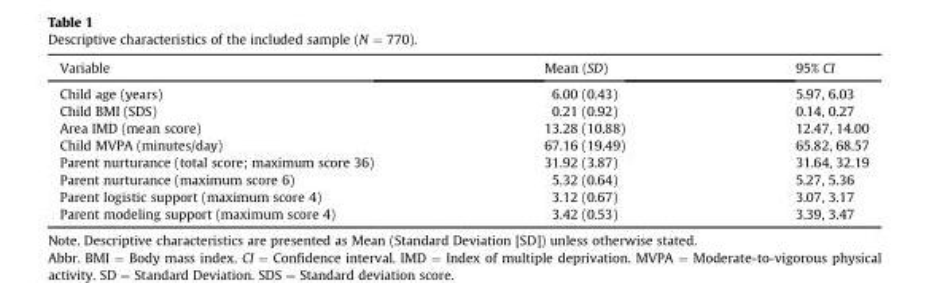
<table><thead><tr><td>Variable</td><td>Mean (SD)</td><td>95% CI</td></tr></thead><tbody><tr><td>Child age (years)</td><td>6.00 (0.43)</td><td>5.97, 6.03</td></tr><tr><td>Child BMI (SDS)</td><td>0.21 (0.92)</td><td>0.14, 0.27</td></tr><tr><td>Area IMD (mean score)</td><td>13.28 (10.88)</td><td>12.47, 14.00</td></tr><tr><td>Child MVPA (minutes/day)</td><td>67.16 (19.49)</td><td>65.82, 68.57</td></tr><tr><td>Parent nurturance (total score; maximum score 36)</td><td>31.92 (3.87)</td><td>31.64, 32.19</td></tr><tr><td>Parent nurturance (maximum score 6)</td><td>5.32 (0.64)</td><td>5.27, 5.36</td></tr><tr><td>Parent logistic support (maximum score 4)</td><td>3.12 (0.67)</td><td>3.07, 3.17</td></tr><tr><td>Parent modeling support (maximum score 4)</td><td>3.42 (0.53)</td><td>3.39, 3.47</td></tr></tbody></table>